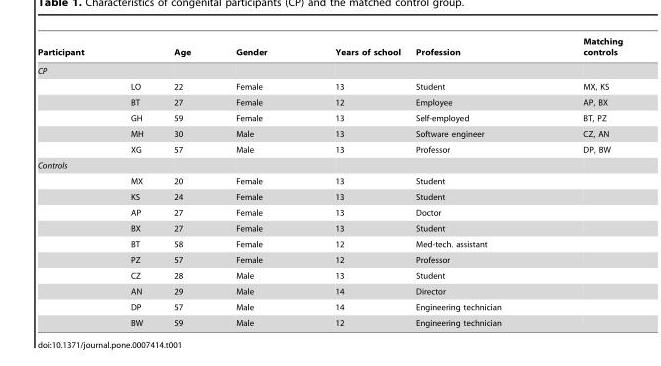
<table><thead><tr><td colspan="2">Participant</td><td rowspan="2">Age</td><td rowspan="2">Gender</td><td rowspan="2">Years of school</td><td rowspan="2">Profession</td><td rowspan="2">Matching controls</td></tr><tr><td>CP</td><td></td></tr></thead><tbody><tr><td></td><td>LO</td><td>22</td><td>Female</td><td>13</td><td>Student</td><td>MX, KS</td></tr><tr><td></td><td>BT</td><td>27</td><td>Female</td><td>12</td><td>Employee</td><td>AP, BX</td></tr><tr><td></td><td>GH</td><td>59</td><td>Female</td><td>13</td><td>Self-employed</td><td>BT, PZ</td></tr><tr><td></td><td>MH</td><td>30</td><td>Male</td><td>13</td><td>Software engineer</td><td>CZ, AN</td></tr><tr><td></td><td>XG</td><td>57</td><td>Male</td><td>13</td><td>Professor</td><td>DP, BW</td></tr><tr><td colspan="7">Controls</td></tr><tr><td></td><td>MX</td><td>20</td><td>Female</td><td>13</td><td>Student</td><td></td></tr><tr><td></td><td>KS</td><td>24</td><td>Female</td><td>13</td><td>Student</td><td></td></tr><tr><td></td><td>AP</td><td>27</td><td>Female</td><td>13</td><td>Doctor</td><td></td></tr><tr><td></td><td>BX</td><td>27</td><td>Female</td><td>13</td><td>Student</td><td></td></tr><tr><td></td><td>BT</td><td>58</td><td>Female</td><td>12</td><td>Med-tech. assistant</td><td></td></tr><tr><td></td><td>PZ</td><td>57</td><td>Female</td><td>12</td><td>Professor</td><td></td></tr><tr><td></td><td>CZ</td><td>28</td><td>Male</td><td>13</td><td>Student</td><td></td></tr><tr><td></td><td>AN</td><td>29</td><td>Male</td><td>14</td><td>Director</td><td></td></tr><tr><td></td><td>DP</td><td>57</td><td>Male</td><td>14</td><td>Engineering technician</td><td></td></tr><tr><td></td><td>BW</td><td>59</td><td>Male</td><td>12</td><td>Engineering technician</td><td></td></tr></tbody></table>